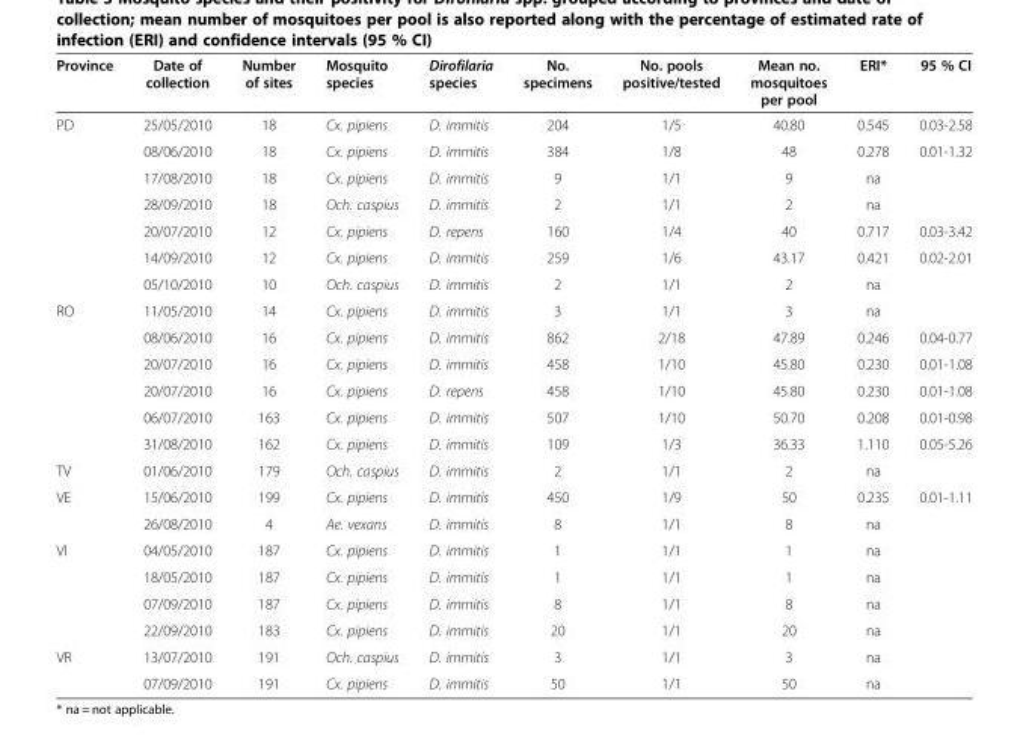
<table><thead><tr><td>Province</td><td>Date of collection</td><td>Number of sites</td><td>Mosquito species</td><td>Dirofilaria species</td><td>No. specimens</td><td>No. pools positive/tested</td><td>Mean no. mosquitoes per pool</td><td>ERI*</td><td>95 % CI</td></tr></thead><tbody><tr><td rowspan="7">PD</td><td>25/05/2010</td><td>18</td><td>Cx. pipiens</td><td>D. immitis</td><td>204</td><td>1/5</td><td>40.80</td><td>0.545</td><td>0.03-2.58</td></tr><tr><td>08/06/2010</td><td>18</td><td>Cx. pipiens</td><td>D. immitis</td><td>384</td><td>1/8</td><td>48</td><td>0.278</td><td>0.01-1.32</td></tr><tr><td>17/08/2010</td><td>18</td><td>Cx. pipiens</td><td>D. immitis</td><td>9</td><td>1/1</td><td>9</td><td>na</td><td></td></tr><tr><td>28/09/2010</td><td>18</td><td>Och. caspius</td><td>D. immitis</td><td>2</td><td>1/1</td><td>2</td><td>na</td><td></td></tr><tr><td>20/07/2010</td><td>12</td><td>Cx. pipiens</td><td>D. repens</td><td>160</td><td>1/4</td><td>40</td><td>0.717</td><td>0.03-3.42</td></tr><tr><td>14/09/2010</td><td>12</td><td>Cx. pipiens</td><td>D. immitis</td><td>259</td><td>1/6</td><td>43.17</td><td>0.421</td><td>0.02-2.01</td></tr><tr><td>05/10/2010</td><td>10</td><td>Och. caspius</td><td>D. immitis</td><td>2</td><td>1/1</td><td>2</td><td>na</td><td></td></tr><tr><td rowspan="6">RO</td><td>11/05/2010</td><td>14</td><td>Cx. pipiens</td><td>D. immitis</td><td>3</td><td>1/1</td><td>3</td><td>na</td><td></td></tr><tr><td>08/06/2010</td><td>16</td><td>Cx. pipiens</td><td>D. immitis</td><td>862</td><td>2/18</td><td>47.89</td><td>0.246</td><td>0.04-0.77</td></tr><tr><td>20/07/2010</td><td>16</td><td>Cx. pipiens</td><td>D. immitis</td><td>458</td><td>1/10</td><td>45.80</td><td>0.230</td><td>0.01-1.08</td></tr><tr><td>20/07/2010</td><td>16</td><td>Cx. pipiens</td><td>D. repens</td><td>458</td><td>1/10</td><td>45.80</td><td>0.230</td><td>0.01-1.08</td></tr><tr><td>06/07/2010</td><td>163</td><td>Cx. pipiens</td><td>D. immitis</td><td>507</td><td>1/10</td><td>50.70</td><td>0.208</td><td>0.01-0.98</td></tr><tr><td>31/08/2010</td><td>162</td><td>Cx. pipiens</td><td>D. immitis</td><td>109</td><td>1/3</td><td>36.33</td><td>1.110</td><td>0.05-5.26</td></tr><tr><td>TV</td><td>01/06/2010</td><td>179</td><td>Och. caspius</td><td>D. immitis</td><td>2</td><td>1/1</td><td>2</td><td>na</td><td></td></tr><tr><td rowspan="2">VE</td><td>15/06/2010</td><td>199</td><td>Cx. pipiens</td><td>D. immitis</td><td>450</td><td>1/9</td><td>50</td><td>0.235</td><td>0.01-1.11</td></tr><tr><td>26/08/2010</td><td>4</td><td>Ae. vexans</td><td>D. immitis</td><td>8</td><td>1/1</td><td>8</td><td>na</td><td></td></tr><tr><td rowspan="4">VI</td><td>04/05/2010</td><td>187</td><td>Cx. pipiens</td><td>D. immitis</td><td>1</td><td>1/1</td><td>1</td><td>na</td><td></td></tr><tr><td>18/05/2010</td><td>187</td><td>Cx. pipiens</td><td>D. immitis</td><td>1</td><td>1/1</td><td>1</td><td>na</td><td></td></tr><tr><td>07/09/2010</td><td>187</td><td>Cx. pipiens</td><td>D. immitis</td><td>8</td><td>1/1</td><td>8</td><td>na</td><td></td></tr><tr><td>22/09/2010</td><td>183</td><td>Cx. pipiens</td><td>D. immitis</td><td>20</td><td>1/1</td><td>20</td><td>na</td><td></td></tr><tr><td rowspan="2">VR</td><td>13/07/2010</td><td>191</td><td>Och. caspius</td><td>D. immitis</td><td>3</td><td>1/1</td><td>3</td><td>na</td><td></td></tr><tr><td>07/09/2010</td><td>191</td><td>Cx. pipiens</td><td>D. immitis</td><td>50</td><td>1/1</td><td>50</td><td>na</td><td></td></tr></tbody></table>